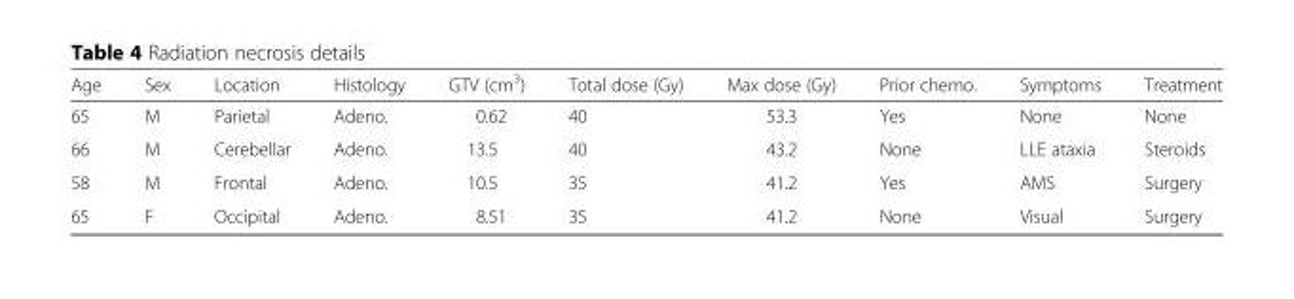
<table><thead><tr><td>Age</td><td>Sex</td><td>Location</td><td>Histology</td><td>GTV (cm<sup>3</sup>)</td><td>Total dose (Gy)</td><td>Max dose (Gy)</td><td>Prior chemo.</td><td>Symptoms</td><td>Treatment</td></tr></thead><tbody><tr><td>65</td><td>M</td><td>Parietal</td><td>Adeno.</td><td>0.62</td><td>40</td><td>53.3</td><td>Yes</td><td>None</td><td>None</td></tr><tr><td>66</td><td>M</td><td>Cerebellar</td><td>Adeno.</td><td>13.5</td><td>40</td><td>43.2</td><td>None</td><td>LLE ataxia</td><td>Steroids</td></tr><tr><td>58</td><td>M</td><td>Frontal</td><td>Adeno.</td><td>10.5</td><td>35</td><td>41.2</td><td>Yes</td><td>AMS</td><td>Surgery</td></tr><tr><td>65</td><td>F</td><td>Occipital</td><td>Adeno.</td><td>8.51</td><td>35</td><td>41.2</td><td>None</td><td>Visual</td><td>Surgery</td></tr></tbody></table>